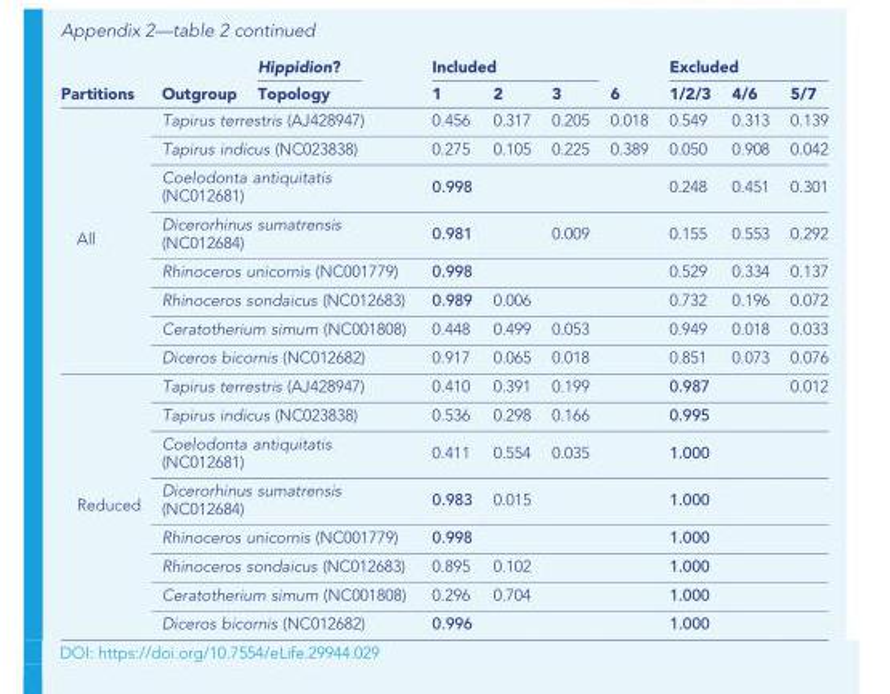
<table><thead><tr><td rowspan="2">Partitions</td><td rowspan="2">Outgroup</td><td rowspan="2">Hippidion? Topology</td><td colspan="4">Included</td><td colspan="3">Excluded</td></tr><tr><td>1</td><td>2</td><td>3</td><td>6</td><td>1/2/3</td><td>4/6</td><td>5/7</td></tr></thead><tbody><tr><td rowspan="8">All</td><td colspan="2">Tapirus terrestris (AJ428947)</td><td>0.456</td><td>0.317</td><td>0.205</td><td>0.018</td><td>0.549</td><td>0.313</td><td>0.139</td></tr><tr><td colspan="2">Tapirus indicus (NC023838)</td><td>0.275</td><td>0.105</td><td>0.225</td><td>0.389</td><td>0.050</td><td>0.908</td><td>0.042</td></tr><tr><td colspan="2">Coelodonta antiquitatis (NC012681)</td><td>0.998</td><td></td><td></td><td></td><td>0.248</td><td>0.451</td><td>0.301</td></tr><tr><td colspan="2">Dicerorhinus sumatrensis (NC012684)</td><td>0.981</td><td></td><td>0.009</td><td></td><td>0.155</td><td>0.553</td><td>0.292</td></tr><tr><td colspan="2">Rhinoceros unicornis (NC001779)</td><td>0.998</td><td></td><td></td><td></td><td>0.529</td><td>0.334</td><td>0.137</td></tr><tr><td colspan="2">Rhinoceros sondaicus (NC012683)</td><td>0.989</td><td>0.006</td><td></td><td></td><td>0.732</td><td>0.196</td><td>0.072</td></tr><tr><td colspan="2">Ceratotherium simum (NC001808)</td><td>0.448</td><td>0.499</td><td>0.053</td><td></td><td>0.949</td><td>0.018</td><td>0.033</td></tr><tr><td colspan="2">Diceros bicornis (NC012682)</td><td>0.917</td><td>0.065</td><td>0.018</td><td></td><td>0.851</td><td>0.073</td><td>0.076</td></tr><tr><td rowspan="8">Reduced</td><td colspan="2">Tapirus terrestris (AJ428947)</td><td>0.410</td><td>0.391</td><td>0.199</td><td></td><td>0.987</td><td></td><td>0.012</td></tr><tr><td colspan="2">Tapirus indicus (NC023838)</td><td>0.536</td><td>0.298</td><td>0.166</td><td></td><td>0.995</td><td></td><td></td></tr><tr><td colspan="2">Coelodonta antiquitatis (NC012681)</td><td>0.411</td><td>0.554</td><td>0.035</td><td></td><td>1.000</td><td></td><td></td></tr><tr><td colspan="2">Dicerorhinus sumatrensis (NC012684)</td><td>0.983</td><td>0.015</td><td></td><td></td><td>1.000</td><td></td><td></td></tr><tr><td colspan="2">Rhinoceros unicornis (NC001779)</td><td>0.998</td><td></td><td></td><td></td><td>1.000</td><td></td><td></td></tr><tr><td colspan="2">Rhinoceros sondaicus (NC012683)</td><td>0.895</td><td>0.102</td><td></td><td></td><td>1.000</td><td></td><td></td></tr><tr><td colspan="2">Ceratotherium simum (NC001808)</td><td>0.296</td><td>0.704</td><td></td><td></td><td>1.000</td><td></td><td></td></tr><tr><td colspan="2">Diceros bicornis (NC012682)</td><td>0.996</td><td></td><td></td><td></td><td>1.000</td><td></td><td></td></tr></tbody></table>